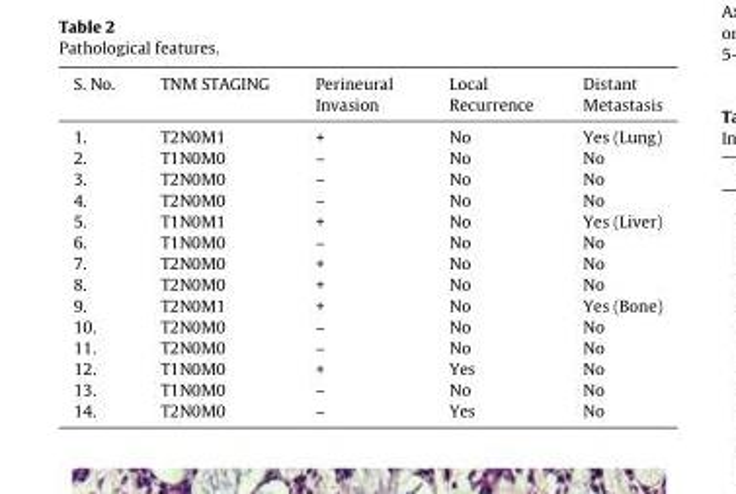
<table><thead><tr><td>S. No.</td><td>TNM STAGING</td><td>Perineural Invasion</td><td>Local Recurrence</td><td>Distant Metastasis</td></tr></thead><tbody><tr><td>1.</td><td>T2N0M1</td><td>+</td><td>No</td><td>Yes (Lung)</td></tr><tr><td>2.</td><td>T1N0M0</td><td>–</td><td>No</td><td>No</td></tr><tr><td>3.</td><td>T2N0M0</td><td>–</td><td>No</td><td>No</td></tr><tr><td>4.</td><td>T2N0M0</td><td>–</td><td>No</td><td>No</td></tr><tr><td>5.</td><td>T1N0M1</td><td>+</td><td>No</td><td>Yes (Liver)</td></tr><tr><td>6.</td><td>T1N0M0</td><td>–</td><td>No</td><td>No</td></tr><tr><td>7.</td><td>T2N0M0</td><td>+</td><td>No</td><td>No</td></tr><tr><td>8.</td><td>T2N0M0</td><td>+</td><td>No</td><td>No</td></tr><tr><td>9.</td><td>T2N0M1</td><td>+</td><td>No</td><td>Yes (Bone)</td></tr><tr><td>10.</td><td>T2N0M0</td><td>–</td><td>No</td><td>No</td></tr><tr><td>11.</td><td>T2N0M0</td><td>–</td><td>No</td><td>No</td></tr><tr><td>12.</td><td>T1N0M0</td><td>+</td><td>Yes</td><td>No</td></tr><tr><td>13.</td><td>T1N0M0</td><td>–</td><td>No</td><td>No</td></tr><tr><td>14.</td><td>T2N0M0</td><td>–</td><td>Yes</td><td>No</td></tr></tbody></table>